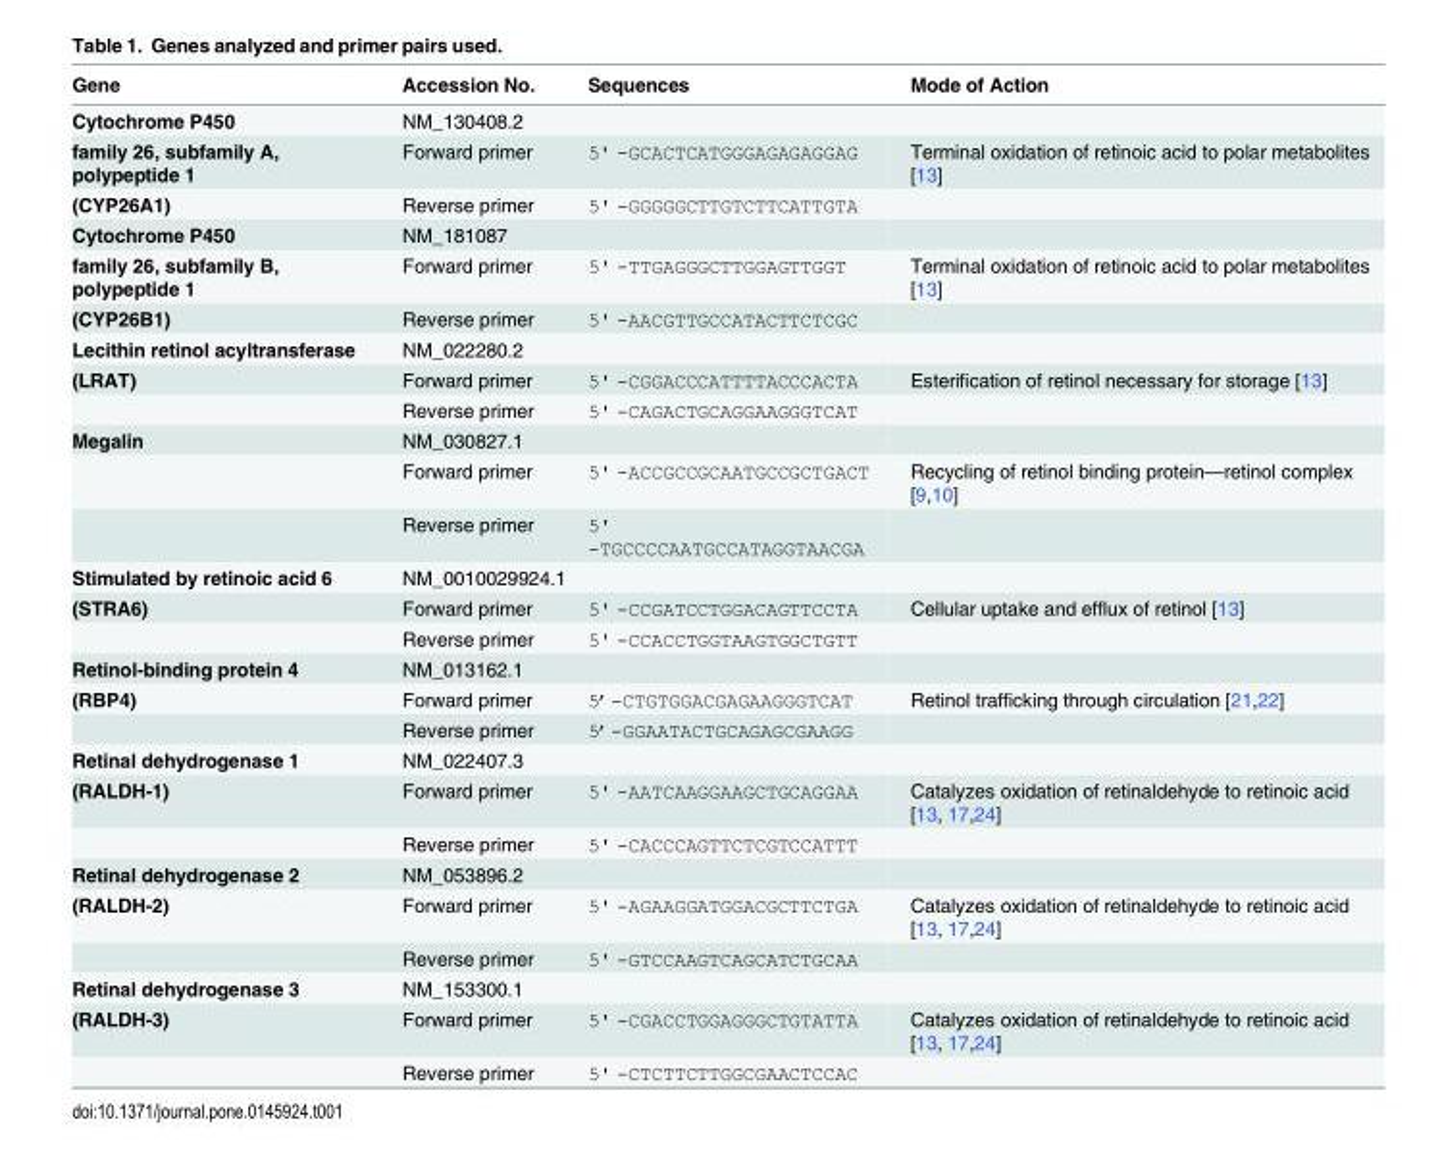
<table><thead><tr><td>Gene</td><td>Accession No.</td><td>Sequences</td><td>Mode of Action</td></tr></thead><tbody><tr><td>Cytochrome P450</td><td>NM_130408.2</td><td></td><td></td></tr><tr><td>family 26, subfamily A, polypeptide 1</td><td>Forward primer</td><td>5&#x27; -GCACTCATGGGAGAGAGGAG</td><td>Terminal oxidation of retinoic acid to polar metabolites [13]</td></tr><tr><td>(CYP26A1)</td><td>Reverse primer</td><td>5&#x27; -GGGGGCTTGTCTTCATTGTA</td><td></td></tr><tr><td>Cytochrome P450</td><td>NM_181087</td><td></td><td></td></tr><tr><td>family 26, subfamily B, polypeptide 1</td><td>Forward primer</td><td>5&#x27; -TTGAGGGCTTGGAGTTGGT</td><td>Terminal oxidation of retinoic acid to polar metabolites [13]</td></tr><tr><td>(CYP26B1)</td><td>Reverse primer</td><td>5&#x27; -AACGTTGCCATACTTCTCGC</td><td></td></tr><tr><td>Lecithin retinol acyltransferase</td><td>NM_022280.2</td><td></td><td></td></tr><tr><td rowspan="2">(LRAT)</td><td>Forward primer</td><td>5&#x27; -CGGACCCATTTTACCCACTA</td><td>Esterification of retinol necessary for storage [13]</td></tr><tr><td>Reverse primer</td><td>5&#x27; -CAGACTGCAGGAAGGGTCAT</td><td></td></tr><tr><td rowspan="3">Megalin</td><td>NM_030827.1</td><td></td><td></td></tr><tr><td>Forward primer</td><td>5&#x27; -ACCGCCGCAATGCCGCTGACT</td><td>Recycling of retinol binding protein—retinol complex [9,10]</td></tr><tr><td>Reverse primer</td><td>5&#x27; -TGCCCCAATGCCATAGGTAACGA</td><td></td></tr><tr><td>Stimulated by retinoic acid 6</td><td>NM_0010029924.1</td><td></td><td></td></tr><tr><td rowspan="2">(STRA6)</td><td>Forward primer</td><td>5&#x27; -CCGATCCTGGACAGTTCCTA</td><td>Cellular uptake and efflux of retinol [13]</td></tr><tr><td>Reverse primer</td><td>5&#x27; -CCACCTGGTAAGTGGCTGTT</td><td></td></tr><tr><td>Retinol-binding protein 4</td><td>NM_013162.1</td><td></td><td></td></tr><tr><td rowspan="2">(RBP4)</td><td>Forward primer</td><td>5’-CTGTGGACGAGAAGGGTCAT</td><td>Retinol trafficking through circulation [21,22]</td></tr><tr><td>Reverse primer</td><td>5’-GGAATACTGCAGAGCGAAGG</td><td></td></tr><tr><td>Retinal dehydrogenase 1</td><td>NM_022407.3</td><td></td><td></td></tr><tr><td rowspan="2">(RALDH-1)</td><td>Forward primer</td><td>5&#x27; -AATCAAGGAAGCTGCAGGAA</td><td>Catalyzes oxidation of retinaldehyde to retinoic acid [13, 17,24]</td></tr><tr><td>Reverse primer</td><td>5&#x27; -CACCCAGTTCTCGTCCATTT</td><td></td></tr><tr><td>Retinal dehydrogenase 2</td><td>NM_053896.2</td><td></td><td></td></tr><tr><td rowspan="2">(RALDH-2)</td><td>Forward primer</td><td>5&#x27; -AGAAGGATGGACGCTTCTGA</td><td>Catalyzes oxidation of retinaldehyde to retinoic acid [13, 17,24]</td></tr><tr><td>Reverse primer</td><td>5&#x27; -GTCCAAGTCAGCATCTGCAA</td><td></td></tr><tr><td>Retinal dehydrogenase 3</td><td>NM_153300.1</td><td></td><td></td></tr><tr><td rowspan="2">(RALDH-3)</td><td>Forward primer</td><td>5&#x27; -CGACCTGGAGGGCTGTATTA</td><td>Catalyzes oxidation of retinaldehyde to retinoic acid [13, 17,24]</td></tr><tr><td>Reverse primer</td><td>5&#x27; -CTCTTCTTGGCGAACTCCAC</td><td></td></tr></tbody></table>